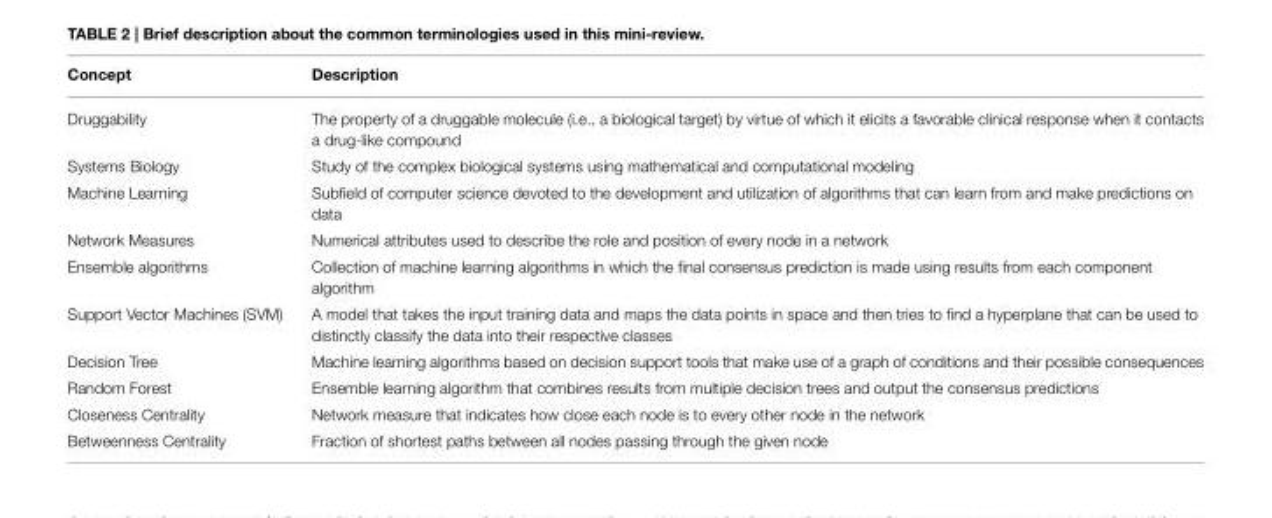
<table><thead><tr><td>Concept</td><td>Description</td></tr></thead><tbody><tr><td>Druggability</td><td>The property of a druggable molecule (i.e., a biological target) by virtue of which it elicits a favorable clinical response when it contacts a drug-like compound</td></tr><tr><td>Systems Biology</td><td>Study of the complex biological systems using mathematical and computational modeling</td></tr><tr><td>Machine Learning</td><td>Subfield of computer science devoted to the development and utilization of algorithms that can learn from and make predictions on data</td></tr><tr><td>Network Measures</td><td>Numerical attributes used to describe the role and position of every node in a network</td></tr><tr><td>Ensemble algorithms</td><td>Collection of machine learning algorithms in which the final consensus prediction is made using results from each component algorithm</td></tr><tr><td>Support Vector Machines (SVM)</td><td>A model that takes the input training data and maps the data points in space and then tries to find a hyperplane that can be used to distinctly classify the data into their respective classes</td></tr><tr><td>Decision Tree</td><td>Machine learning algorithms based on decision support tools that make use of a graph of conditions and their possible consequences</td></tr><tr><td>Random Forest</td><td>Ensemble learning algorithm that combines results from multiple decision trees and output the consensus predictions</td></tr><tr><td>Closeness Centrality</td><td>Network measure that indicates how close each node is to every other node in the network</td></tr><tr><td>Betweenness Centrality</td><td>Fraction of shortest paths between all nodes passing through the given node</td></tr></tbody></table>